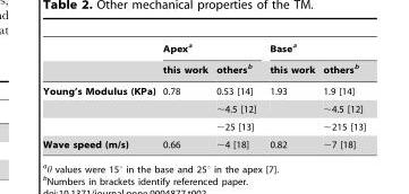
<table><thead><tr><td rowspan="2"></td><td colspan="2">Apex<sup>a</sup></td><td colspan="2">Base<sup>a</sup></td></tr><tr><td>this work</td><td>others<sup>b</sup></td><td>this work</td><td>others<sup>b</sup></td></tr></thead><tbody><tr><td rowspan="3">Young’s Modulus (KPa)</td><td>0.78</td><td>0.53 [14]</td><td>1.93</td><td>1.9 [14]</td></tr><tr><td></td><td>∼4.5 [12]</td><td></td><td>∼4.5 [12]</td></tr><tr><td></td><td>∼25 [13]</td><td></td><td>∼215 [13]</td></tr><tr><td>Wave speed (m/s)</td><td>0.66</td><td>∼4 [18]</td><td>0.82</td><td>∼7 [18]</td></tr></tbody></table>